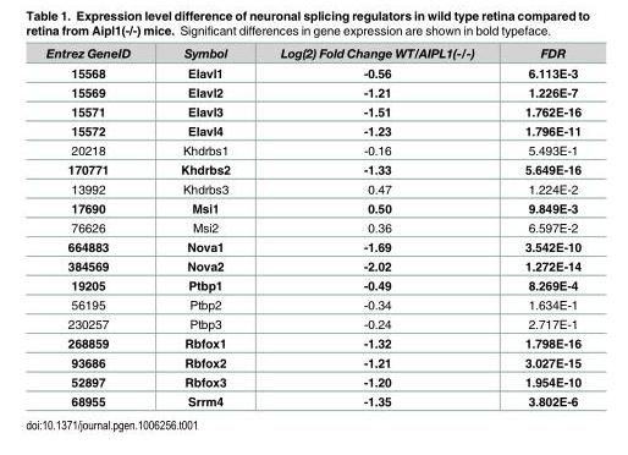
<table><thead><tr><td>Entrez GeneID</td><td>Symbol</td><td>Log(2) Fold Change WT/AIPL1(-/-)</td><td>FDR</td></tr></thead><tbody><tr><td>15568</td><td>Elavl1</td><td>-0.56</td><td>6.113E-3</td></tr><tr><td>15569</td><td>Elavl2</td><td>-1.21</td><td>1.226E-7</td></tr><tr><td>15571</td><td>Elavl3</td><td>-1.51</td><td>1.762E-16</td></tr><tr><td>15572</td><td>Elavl4</td><td>-1.23</td><td>1.796E-11</td></tr><tr><td>20218</td><td>Khdrbs1</td><td>-0.16</td><td>5.493E-1</td></tr><tr><td>170771</td><td>Khdrbs2</td><td>-1.33</td><td>5.649E-16</td></tr><tr><td>13992</td><td>Khdrbs3</td><td>0.47</td><td>1.224E-2</td></tr><tr><td>17690</td><td>Msi1</td><td>0.50</td><td>9.849E-3</td></tr><tr><td>76626</td><td>Msi2</td><td>0.36</td><td>6.597E-2</td></tr><tr><td>664883</td><td>Nova1</td><td>-1.69</td><td>3.542E-10</td></tr><tr><td>384569</td><td>Nova2</td><td>-2.02</td><td>1.272E-14</td></tr><tr><td>19205</td><td>Ptbp1</td><td>-0.49</td><td>8.269E-4</td></tr><tr><td>56195</td><td>Ptbp2</td><td>-0.34</td><td>1.634E-1</td></tr><tr><td>230257</td><td>Ptbp3</td><td>-0.24</td><td>2.717E-1</td></tr><tr><td>268859</td><td>Rbfox1</td><td>-1.32</td><td>1.798E-16</td></tr><tr><td>93686</td><td>Rbfox2</td><td>-1.21</td><td>3.027E-15</td></tr><tr><td>52897</td><td>Rbfox3</td><td>-1.20</td><td>1.954E-10</td></tr><tr><td>68955</td><td>Srrm4</td><td>-1.35</td><td>3.802E-6</td></tr></tbody></table>